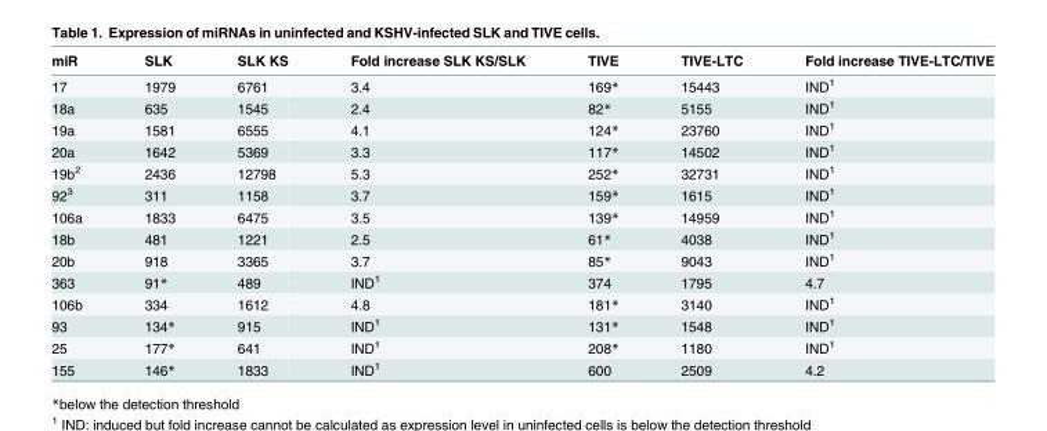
<table><thead><tr><td>miR</td><td>SLK</td><td>SLK KS</td><td>Fold increase SLK KS/SLK</td><td>TIVE</td><td>TIVE-LTC</td><td>Fold increase TIVE-LTC/TIVE</td></tr></thead><tbody><tr><td>17</td><td>1979</td><td>6761</td><td>3.4</td><td>169*</td><td>15443</td><td>IND<sup>1</sup></td></tr><tr><td>18a</td><td>635</td><td>1545</td><td>2.4</td><td>82*</td><td>5155</td><td>IND<sup>1</sup></td></tr><tr><td>19a</td><td>1581</td><td>6555</td><td>4.1</td><td>124*</td><td>23760</td><td>IND<sup>1</sup></td></tr><tr><td>20a</td><td>1642</td><td>5369</td><td>3.3</td><td>117*</td><td>14502</td><td>IND<sup>1</sup></td></tr><tr><td>19b<sup>2</sup></td><td>2436</td><td>12798</td><td>5.3</td><td>252*</td><td>32731</td><td>IND<sup>1</sup></td></tr><tr><td>92<sup>3</sup></td><td>311</td><td>1158</td><td>3.7</td><td>159*</td><td>1615</td><td>IND<sup>1</sup></td></tr><tr><td>106a</td><td>1833</td><td>6475</td><td>3.5</td><td>139*</td><td>14959</td><td>IND<sup>1</sup></td></tr><tr><td>18b</td><td>481</td><td>1221</td><td>2.5</td><td>61*</td><td>4038</td><td>IND<sup>1</sup></td></tr><tr><td>20b</td><td>918</td><td>3365</td><td>3.7</td><td>85*</td><td>9043</td><td>IND<sup>1</sup></td></tr><tr><td>363</td><td>91*</td><td>489</td><td>IND<sup>1</sup></td><td>374</td><td>1795</td><td>4.7</td></tr><tr><td>106b</td><td>334</td><td>1612</td><td>4.8</td><td>181*</td><td>3140</td><td>IND<sup>1</sup></td></tr><tr><td>93</td><td>134*</td><td>915</td><td>IND<sup>1</sup></td><td>131*</td><td>1548</td><td>IND<sup>1</sup></td></tr><tr><td>25</td><td>177*</td><td>641</td><td>IND<sup>1</sup></td><td>208*</td><td>1180</td><td>IND<sup>1</sup></td></tr><tr><td>155</td><td>146*</td><td>1833</td><td>IND<sup>1</sup></td><td>600</td><td>2509</td><td>4.2</td></tr></tbody></table>